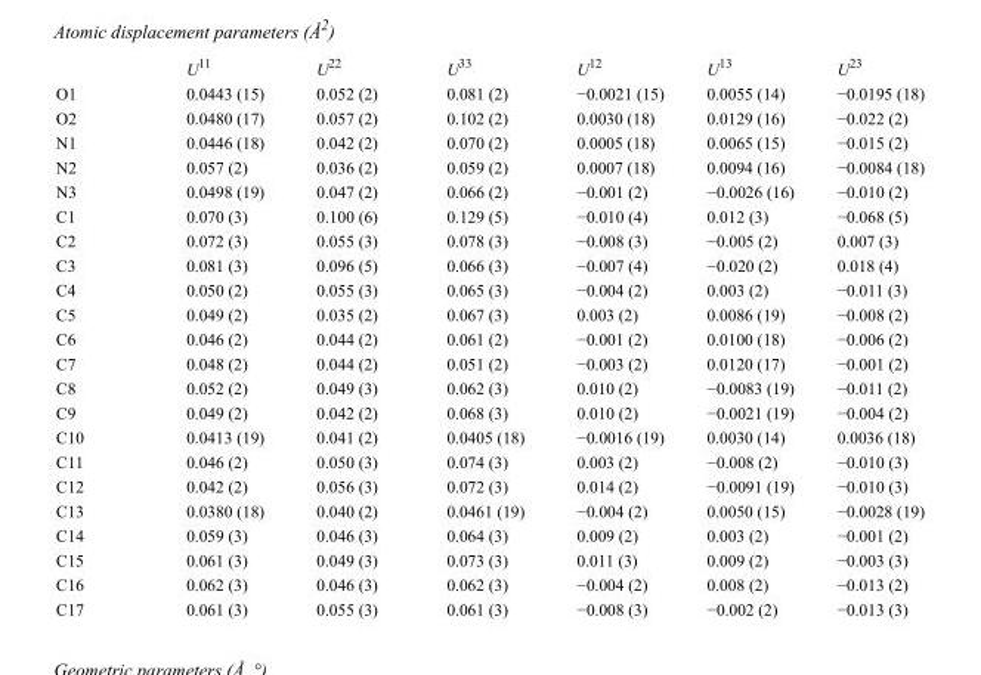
<table><thead><tr><td></td><td>U<sup>11</sup></td><td>U<sup>22</sup></td><td>U<sup>33</sup></td><td>U<sup>12</sup></td><td>U<sup>13</sup></td><td>U<sup>23</sup></td></tr></thead><tbody><tr><td>O1</td><td>0.0443 (15)</td><td>0.052 (2)</td><td>0.081 (2)</td><td>−0.0021 (15)</td><td>0.0055 (14)</td><td>−0.0195 (18)</td></tr><tr><td>O2</td><td>0.0480 (17)</td><td>0.057 (2)</td><td>0.102 (2)</td><td>0.0030 (18)</td><td>0.0129 (16)</td><td>−0.022 (2)</td></tr><tr><td>N1</td><td>0.0446 (18)</td><td>0.042 (2)</td><td>0.070 (2)</td><td>0.0005 (18)</td><td>0.0065 (15)</td><td>−0.015 (2)</td></tr><tr><td>N2</td><td>0.057 (2)</td><td>0.036 (2)</td><td>0.059 (2)</td><td>0.0007 (18)</td><td>0.0094 (16)</td><td>−0.0084 (18)</td></tr><tr><td>N3</td><td>0.0498 (19)</td><td>0.047 (2)</td><td>0.066 (2)</td><td>−0.001 (2)</td><td>−0.0026 (16)</td><td>−0.010 (2)</td></tr><tr><td>C1</td><td>0.070 (3)</td><td>0.100 (6)</td><td>0.129 (5)</td><td>−0.010 (4)</td><td>0.012 (3)</td><td>−0.068 (5)</td></tr><tr><td>C2</td><td>0.072 (3)</td><td>0.055 (3)</td><td>0.078 (3)</td><td>−0.008 (3)</td><td>−0.005 (2)</td><td>0.007 (3)</td></tr><tr><td>C3</td><td>0.081 (3)</td><td>0.096 (5)</td><td>0.066 (3)</td><td>−0.007 (4)</td><td>−0.020 (2)</td><td>0.018 (4)</td></tr><tr><td>C4</td><td>0.050 (2)</td><td>0.055 (3)</td><td>0.065 (3)</td><td>−0.004 (2)</td><td>0.003 (2)</td><td>−0.011 (3)</td></tr><tr><td>C5</td><td>0.049 (2)</td><td>0.035 (2)</td><td>0.067 (3)</td><td>0.003 (2)</td><td>0.0086 (19)</td><td>−0.008 (2)</td></tr><tr><td>C6</td><td>0.046 (2)</td><td>0.044 (2)</td><td>0.061 (2)</td><td>−0.001 (2)</td><td>0.0100 (18)</td><td>−0.006 (2)</td></tr><tr><td>C7</td><td>0.048 (2)</td><td>0.044 (2)</td><td>0.051 (2)</td><td>−0.003 (2)</td><td>0.0120 (17)</td><td>−0.001 (2)</td></tr><tr><td>C8</td><td>0.052 (2)</td><td>0.049 (3)</td><td>0.062 (3)</td><td>0.010 (2)</td><td>−0.0083 (19)</td><td>−0.011 (2)</td></tr><tr><td>C9</td><td>0.049 (2)</td><td>0.042 (2)</td><td>0.068 (3)</td><td>0.010 (2)</td><td>−0.0021 (19)</td><td>−0.004 (2)</td></tr><tr><td>C10</td><td>0.0413 (19)</td><td>0.041 (2)</td><td>0.0405 (18)</td><td>−0.0016 (19)</td><td>0.0030 (14)</td><td>0.0036 (18)</td></tr><tr><td>C11</td><td>0.046 (2)</td><td>0.050 (3)</td><td>0.074 (3)</td><td>0.003 (2)</td><td>−0.008 (2)</td><td>−0.010 (3)</td></tr><tr><td>C12</td><td>0.042 (2)</td><td>0.056 (3)</td><td>0.072 (3)</td><td>0.014 (2)</td><td>−0.0091 (19)</td><td>−0.010 (3)</td></tr><tr><td>C13</td><td>0.0380 (18)</td><td>0.040 (2)</td><td>0.0461 (19)</td><td>−0.004 (2)</td><td>0.0050 (15)</td><td>−0.0028 (19)</td></tr><tr><td>C14</td><td>0.059 (3)</td><td>0.046 (3)</td><td>0.064 (3)</td><td>0.009 (2)</td><td>0.003 (2)</td><td>−0.001 (2)</td></tr><tr><td>C15</td><td>0.061 (3)</td><td>0.049 (3)</td><td>0.073 (3)</td><td>0.011 (3)</td><td>0.009 (2)</td><td>−0.003 (3)</td></tr><tr><td>C16</td><td>0.062 (3)</td><td>0.046 (3)</td><td>0.062 (3)</td><td>−0.004 (2)</td><td>0.008 (2)</td><td>−0.013 (2)</td></tr><tr><td>C17</td><td>0.061 (3)</td><td>0.055 (3)</td><td>0.061 (3)</td><td>−0.008 (3)</td><td>−0.002 (2)</td><td>−0.013 (3)</td></tr></tbody></table>